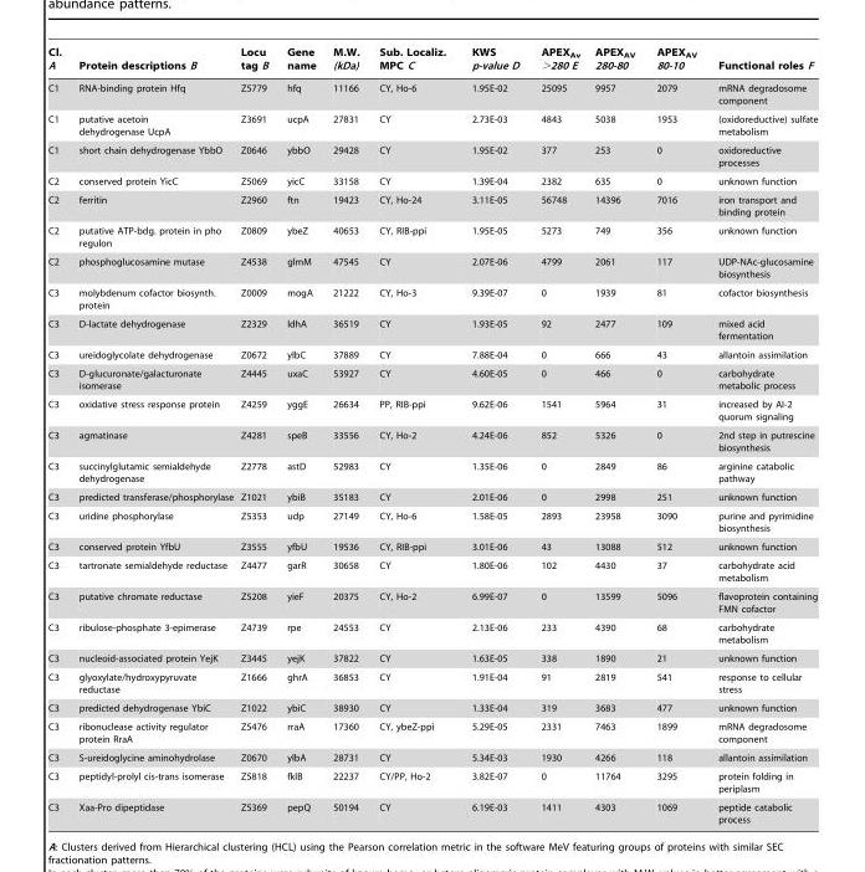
<table><thead><tr><td>Cl. A</td><td>Protein descriptions B</td><td>Locu tag B</td><td>Gene name</td><td>M.W. (kDa)</td><td>Sub. Localiz. MPC C</td><td>KWS p-value D</td><td>APEX<sub>Av</sub> &gt;280 E</td><td>APEX<sub>AV</sub> 280-80</td><td>APEX<sub>AV</sub> 80-10</td><td>Functional roles F</td></tr></thead><tbody><tr><td>C1</td><td>RNA-binding protein Hfq</td><td>Z5779</td><td>hfq</td><td>11166</td><td>CY, Ho-6</td><td>1.95E-02</td><td>25095</td><td>9957</td><td>2079</td><td>mRNA degradosome component</td></tr><tr><td>C1</td><td>putative acetoin dehydrogenase UcpA</td><td>Z3691</td><td>ucpA</td><td>27831</td><td>CY</td><td>2.73E-03</td><td>4843</td><td>5038</td><td>1953</td><td>(oxidoreductive) sulfate metabolism</td></tr><tr><td>C1</td><td>short chain dehydrogenase YbbO</td><td>Z0646</td><td>ybbO</td><td>29428</td><td>CY</td><td>1.95E-02</td><td>377</td><td>253</td><td>0</td><td>oxidoreductive processes</td></tr><tr><td>C2</td><td>conserved protein YicC</td><td>Z5069</td><td>yicC</td><td>33158</td><td>CY</td><td>1.39E-04</td><td>2382</td><td>635</td><td>0</td><td>unknown function</td></tr><tr><td>C2</td><td>ferritin</td><td>Z2960</td><td>ftn</td><td>19423</td><td>CY, Ho-24</td><td>3.11E-05</td><td>56748</td><td>14396</td><td>7016</td><td>iron transport and binding protein</td></tr><tr><td>C2</td><td>putative ATP-bdg. protein in pho regulon</td><td>Z0809</td><td>ybeZ</td><td>40653</td><td>CY, RIB-ppi</td><td>1.95E-05</td><td>5273</td><td>749</td><td>356</td><td>unknown function</td></tr><tr><td>C2</td><td>phosphoglucosamine mutase</td><td>Z4538</td><td>glmM</td><td>47545</td><td>CY</td><td>2.07E-06</td><td>4799</td><td>2061</td><td>117</td><td>UDP-NAc-glucosamine biosynthesis</td></tr><tr><td>C3</td><td>molybdenum cofactor biosynth. protein</td><td>Z0009</td><td>mogA</td><td>21222</td><td>CY, Ho-3</td><td>9.39E-07</td><td>0</td><td>1939</td><td>81</td><td>cofactor biosynthesis</td></tr><tr><td>C3</td><td>D-lactate dehydrogenase</td><td>Z2329</td><td>ldhA</td><td>36519</td><td>CY</td><td>1.93E-05</td><td>92</td><td>2477</td><td>109</td><td>mixed acid fermentation</td></tr><tr><td>C3</td><td>ureidoglycolate dehydrogenase</td><td>Z0672</td><td>ylbC</td><td>37889</td><td>CY</td><td>7.88E-04</td><td>0</td><td>666</td><td>43</td><td>allantoin assimilation</td></tr><tr><td>C3</td><td>D-glucuronate/galacturonate isomerase</td><td>Z4445</td><td>uxaC</td><td>53927</td><td>CY</td><td>4.60E-05</td><td>0</td><td>466</td><td>0</td><td>carbohydrate metabolic process</td></tr><tr><td>C3</td><td>oxidative stress response protein</td><td>Z4259</td><td>yggE</td><td>26634</td><td>PP, RIB-ppi</td><td>9.62E-06</td><td>1541</td><td>5964</td><td>31</td><td>increased by AI-2 quorum signaling</td></tr><tr><td>C3</td><td>agmatinase</td><td>Z4281</td><td>speB</td><td>33556</td><td>CY, Ho-2</td><td>4.24E-06</td><td>852</td><td>5326</td><td>0</td><td>2nd step in putrescine biosynthesis</td></tr><tr><td>C3</td><td>succinylglutamic semialdehyde dehydrogenase</td><td>Z2778</td><td>astD</td><td>52983</td><td>CY</td><td>1.35E-06</td><td>0</td><td>2849</td><td>86</td><td>arginine catabolic pathway</td></tr><tr><td>C3</td><td>predicted transferase/phosphorylase</td><td>Z1021</td><td>ybiB</td><td>35183</td><td>CY</td><td>2.01E-06</td><td>0</td><td>2998</td><td>251</td><td>unknown function</td></tr><tr><td>C3</td><td>uridine phosphorylase</td><td>Z5353</td><td>udp</td><td>27149</td><td>CY, Ho-6</td><td>1.58E-05</td><td>2893</td><td>23958</td><td>3090</td><td>purine and pyrimidine biosynthesis</td></tr><tr><td>C3</td><td>conserved protein YfbU</td><td>Z3555</td><td>yfbU</td><td>19536</td><td>CY, RIB-ppi</td><td>3.01E-06</td><td>43</td><td>13088</td><td>512</td><td>unknown function</td></tr><tr><td>C3</td><td>tartronate semialdehyde reductase</td><td>Z4477</td><td>garR</td><td>30658</td><td>CY</td><td>1.80E-06</td><td>102</td><td>4430</td><td>37</td><td>carbohydrate acid metabolism</td></tr><tr><td>C3</td><td>putative chromate reductase</td><td>Z5208</td><td>yieF</td><td>20375</td><td>CY, Ho-2</td><td>6.99E-07</td><td>0</td><td>13599</td><td>5096</td><td>flavoprotein containing FMN cofactor</td></tr><tr><td>C3</td><td>ribulose-phosphate 3-epimerase</td><td>Z4739</td><td>rpe</td><td>24553</td><td>CY</td><td>2.13E-06</td><td>233</td><td>4390</td><td>68</td><td>carbohydrate metabolism</td></tr><tr><td>C3</td><td>nucleoid-associated protein YejK</td><td>Z3445</td><td>yejK</td><td>37822</td><td>CY</td><td>1.63E-05</td><td>338</td><td>1890</td><td>21</td><td>unknown function</td></tr><tr><td>C3</td><td>glyoxylate/hydroxypyruvate reductase</td><td>Z1666</td><td>ghrA</td><td>36853</td><td>CY</td><td>1.91E-04</td><td>91</td><td>2819</td><td>541</td><td>response to cellular stress</td></tr><tr><td>C3</td><td>predicted dehydrogenase YbiC</td><td>Z1022</td><td>ybiC</td><td>38930</td><td>CY</td><td>1.33E-04</td><td>319</td><td>3683</td><td>477</td><td>unknown function</td></tr><tr><td>C3</td><td>ribonuclease activity regulator protein RraA</td><td>Z5476</td><td>rraA</td><td>17360</td><td>CY, ybeZ-ppi</td><td>5.29E-05</td><td>2331</td><td>7463</td><td>1899</td><td>mRNA degradosome component</td></tr><tr><td>C3</td><td>S-ureidoglycine aminohydrolase</td><td>Z0670</td><td>ylbA</td><td>28731</td><td>CY</td><td>5.34E-03</td><td>1930</td><td>4266</td><td>118</td><td>allantoin assimilation</td></tr><tr><td>C3</td><td>peptidyl-prolyl cis-trans isomerase</td><td>Z5818</td><td>fklB</td><td>22237</td><td>CY/PP, Ho-2</td><td>3.82E-07</td><td>0</td><td>11764</td><td>3295</td><td>protein folding in periplasm</td></tr><tr><td>C3</td><td>Xaa-Pro dipeptidase</td><td>Z5369</td><td>pepQ</td><td>50194</td><td>CY</td><td>6.19E-03</td><td>1411</td><td>4303</td><td>1069</td><td>peptide catabolic process</td></tr></tbody></table>